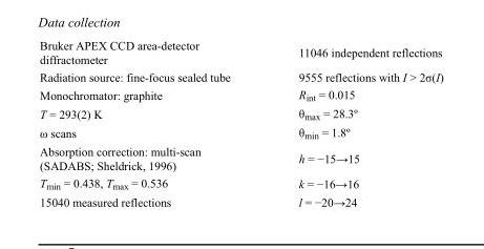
<table><tbody><tr><td>Bruker APEX CCD area-detector diffractometer</td><td>11046 independent reflections</td></tr><tr><td>Radiation source: fine-focus sealed tube</td><td>9555 reflections with I &gt; 2σ(I)</td></tr><tr><td>Monochromator: graphite</td><td>R<sub>int</sub> = 0.015</td></tr><tr><td>T = 293(2) K</td><td>θ<sub>max</sub> = 28.3º</td></tr><tr><td>ω scans</td><td>θ<sub>min</sub> = 1.8º</td></tr><tr><td>Absorption correction: multi-scan (SADABS; Sheldrick, 1996)</td><td>h = −15→15</td></tr><tr><td>T<sub>min</sub> = 0.438, T<sub>max</sub> = 0.536</td><td>k = −16→16</td></tr><tr><td>15040 measured reflections</td><td>l = −20→24</td></tr></tbody></table>